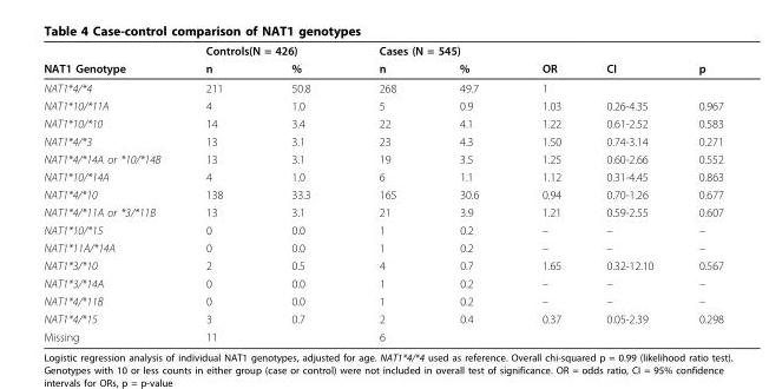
<table><thead><tr><td rowspan="2">NAT1 Genotype</td><td colspan="2">Controls(N = 426)</td><td colspan="2">Cases (N = 545)</td><td rowspan="2">OR</td><td rowspan="2">CI</td><td rowspan="2">p</td></tr><tr><td>n</td><td>%</td><td>n</td><td>%</td></tr></thead><tbody><tr><td>NAT1*4/*4</td><td>211</td><td>50.8</td><td>268</td><td>49.7</td><td>1</td><td></td><td></td></tr><tr><td>NAT1*10/*11A</td><td>4</td><td>1.0</td><td>5</td><td>0.9</td><td>1.03</td><td>0.26-4.35</td><td>0.967</td></tr><tr><td>NAT1*10/*10</td><td>14</td><td>3.4</td><td>22</td><td>4.1</td><td>1.22</td><td>0.61-2.52</td><td>0.583</td></tr><tr><td>NAT1*4/*3</td><td>13</td><td>3.1</td><td>23</td><td>4.3</td><td>1.50</td><td>0.74-3.14</td><td>0.271</td></tr><tr><td>NAT1*4/*14A or *10/*14B</td><td>13</td><td>3.1</td><td>19</td><td>3.5</td><td>1.25</td><td>0.60-2.66</td><td>0.552</td></tr><tr><td>NAT1*10/*14A</td><td>4</td><td>1.0</td><td>6</td><td>1.1</td><td>1.12</td><td>0.31-4.45</td><td>0.863</td></tr><tr><td>NAT1*4/*10</td><td>138</td><td>33.3</td><td>165</td><td>30.6</td><td>0.94</td><td>0.70-1.26</td><td>0.677</td></tr><tr><td>NAT1*4/*11A or *3/*11B</td><td>13</td><td>3.1</td><td>21</td><td>3.9</td><td>1.21</td><td>0.59-2.55</td><td>0.607</td></tr><tr><td>NAT1*10/*15</td><td>0</td><td>0.0</td><td>1</td><td>0.2</td><td>–</td><td>–</td><td>–</td></tr><tr><td>NAT1*11A/*14A</td><td>0</td><td>0.0</td><td>1</td><td>0.2</td><td>–</td><td>–</td><td>–</td></tr><tr><td>NAT1*3/*10</td><td>2</td><td>0.5</td><td>4</td><td>0.7</td><td>1.65</td><td>0.32-12.10</td><td>0.567</td></tr><tr><td>NAT1*3/*14A</td><td>0</td><td>0.0</td><td>1</td><td>0.2</td><td>–</td><td>–</td><td>–</td></tr><tr><td>NAT1*4/*11B</td><td>0</td><td>0.0</td><td>1</td><td>0.2</td><td>–</td><td>–</td><td>–</td></tr><tr><td>NAT1*4/*15</td><td>3</td><td>0.7</td><td>2</td><td>0.4</td><td>0.37</td><td>0.05-2.39</td><td>0.298</td></tr><tr><td>Missing</td><td>11</td><td></td><td>6</td><td></td><td></td><td></td><td></td></tr></tbody></table>